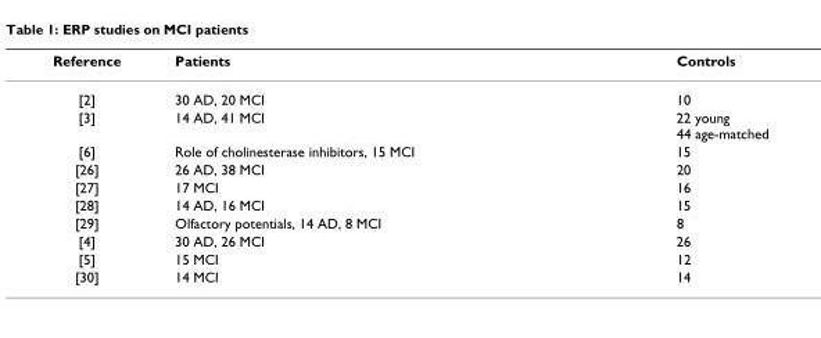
<table><thead><tr><td>Reference</td><td>Patients</td><td>Controls</td></tr></thead><tbody><tr><td>[2]</td><td>30 AD, 20 MCI</td><td>10</td></tr><tr><td>[3]</td><td>14 AD, 41 MCI</td><td>22 young 44 age-matched</td></tr><tr><td>[6]</td><td>Role of cholinesterase inhibitors, 15 MCI</td><td>15</td></tr><tr><td>[26]</td><td>26 AD, 38 MCI</td><td>20</td></tr><tr><td>[27]</td><td>17 MCI</td><td>16</td></tr><tr><td>[28]</td><td>14 AD, 16 MCI</td><td>15</td></tr><tr><td>[29]</td><td>Olfactory potentials, 14 AD, 8 MCI</td><td>8</td></tr><tr><td>[4]</td><td>30 AD, 26 MCI</td><td>26</td></tr><tr><td>[5]</td><td>15 MCI</td><td>12</td></tr><tr><td>[30]</td><td>14 MCI</td><td>14</td></tr></tbody></table>